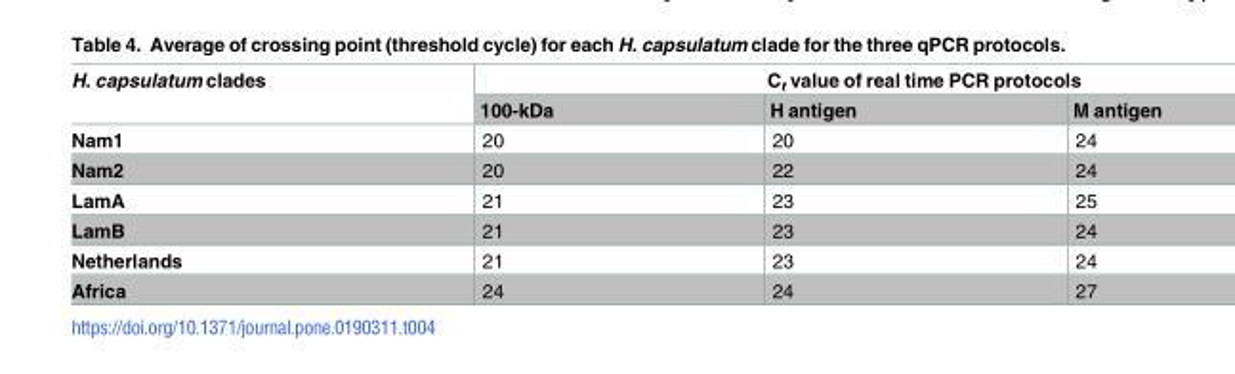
<table><thead><tr><td rowspan="2">H. capsulatum clades</td><td colspan="3">C<sub>t</sub> value of real time PCR protocols</td></tr><tr><td>100-kDa</td><td>H antigen</td><td>M antigen</td></tr></thead><tbody><tr><td>Nam1</td><td>20</td><td>20</td><td>24</td></tr><tr><td>Nam2</td><td>20</td><td>22</td><td>24</td></tr><tr><td>LamA</td><td>21</td><td>23</td><td>25</td></tr><tr><td>LamB</td><td>21</td><td>23</td><td>24</td></tr><tr><td>Netherlands</td><td>21</td><td>23</td><td>24</td></tr><tr><td>Africa</td><td>24</td><td>24</td><td>27</td></tr></tbody></table>